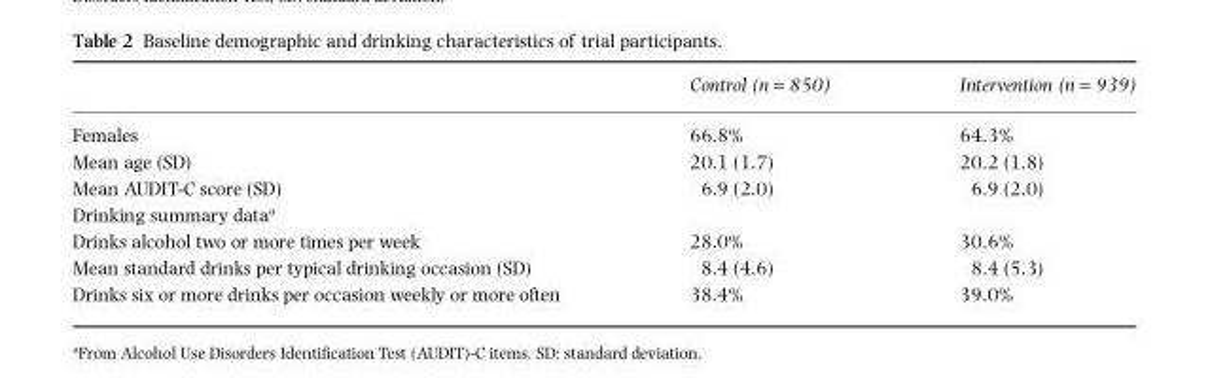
<table><thead><tr><td></td><td>Control (n = 850)</td><td>Intervention (n = 939)</td></tr></thead><tbody><tr><td>Females</td><td>66.8%</td><td>64.3%</td></tr><tr><td>Mean age (SD)</td><td>20.1 (1.7)</td><td>20.2 (1.8)</td></tr><tr><td>Mean AUDIT-C score (SD)</td><td>6.9 (2.0)</td><td>6.9 (2.0)</td></tr><tr><td colspan="3">Drinking summary data<sup>a</sup></td></tr><tr><td>Drinks alcohol two or more times per week</td><td>28.0%</td><td>30.6%</td></tr><tr><td>Mean standard drinks per typical drinking occasion (SD)</td><td>8.4 (4.6)</td><td>8.4 (5.3)</td></tr><tr><td>Drinks six or more drinks per occasion weekly or more often</td><td>38.4%</td><td>39.0%</td></tr></tbody></table>